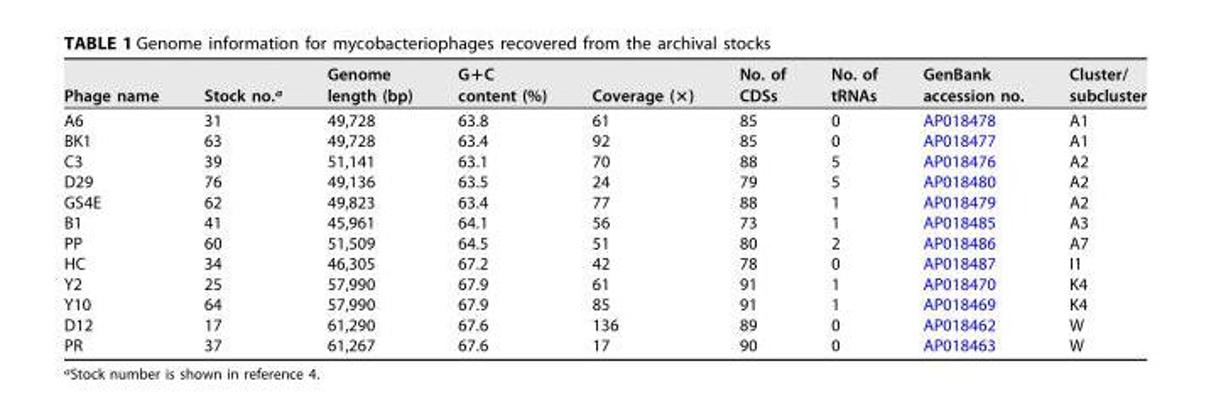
<table><thead><tr><td>Phage name</td><td>Stock no.<sup>a</sup></td><td>Genome length (bp)</td><td>G+C content (%)</td><td>Coverage (×)</td><td>No. of CDSs</td><td>No. of tRNAs</td><td>GenBank accession no.</td><td>Cluster/ subcluster</td></tr></thead><tbody><tr><td>A6</td><td>31</td><td>49,728</td><td>63.8</td><td>61</td><td>85</td><td>0</td><td>AP018478</td><td>A1</td></tr><tr><td>BK1</td><td>63</td><td>49,728</td><td>63.4</td><td>92</td><td>85</td><td>0</td><td>AP018477</td><td>A1</td></tr><tr><td>C3</td><td>39</td><td>51,141</td><td>63.1</td><td>70</td><td>88</td><td>5</td><td>AP018476</td><td>A2</td></tr><tr><td>D29</td><td>76</td><td>49,136</td><td>63.5</td><td>24</td><td>79</td><td>5</td><td>AP018480</td><td>A2</td></tr><tr><td>GS4E</td><td>62</td><td>49,823</td><td>63.4</td><td>77</td><td>88</td><td>1</td><td>AP018479</td><td>A2</td></tr><tr><td>B1</td><td>41</td><td>45,961</td><td>64.1</td><td>56</td><td>73</td><td>1</td><td>AP018485</td><td>A3</td></tr><tr><td>PP</td><td>60</td><td>51,509</td><td>64.5</td><td>51</td><td>80</td><td>2</td><td>AP018486</td><td>A7</td></tr><tr><td>HC</td><td>34</td><td>46,305</td><td>67.2</td><td>42</td><td>78</td><td>0</td><td>AP018487</td><td>I1</td></tr><tr><td>Y2</td><td>25</td><td>57,990</td><td>67.9</td><td>61</td><td>91</td><td>1</td><td>AP018470</td><td>K4</td></tr><tr><td>Y10</td><td>64</td><td>57,990</td><td>67.9</td><td>85</td><td>91</td><td>1</td><td>AP018469</td><td>K4</td></tr><tr><td>D12</td><td>17</td><td>61,290</td><td>67.6</td><td>136</td><td>89</td><td>0</td><td>AP018462</td><td>W</td></tr><tr><td>PR</td><td>37</td><td>61,267</td><td>67.6</td><td>17</td><td>90</td><td>0</td><td>AP018463</td><td>W</td></tr></tbody></table>